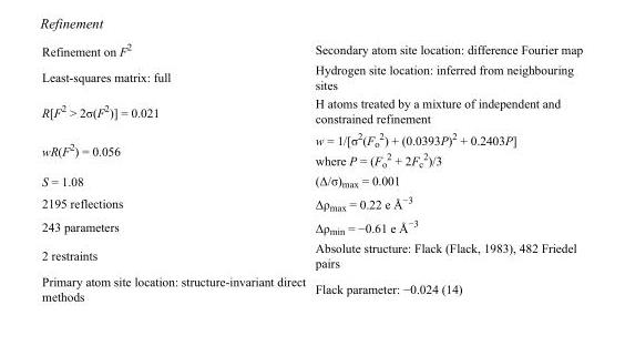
<table><tbody><tr><td>Refinement on F<sup>2</sup></td><td>Secondary atom site location: difference Fourier map</td></tr><tr><td>Least-squares matrix: full</td><td>Hydrogen site location: inferred from neighbouring sites</td></tr><tr><td>R[F<sup>2</sup> &gt; 2σ(F<sup>2</sup>)] = 0.021</td><td>H atoms treated by a mixture of independent and constrained refinement</td></tr><tr><td>wR(F<sup>2</sup>) = 0.056</td><td>w = 1/[σ<sup>2</sup>(F<sub>o</sub> <sup>2</sup>) + (0.0393P)<sup>2</sup> + 0.2403P] where P = (F<sub>o</sub> <sup>2</sup> + 2F<sub>c</sub> <sup>2</sup>)/3</td></tr><tr><td>S = 1.08</td><td>(Δ/σ)<sub>max</sub> = 0.001</td></tr><tr><td>2195 reflections</td><td>Δρ<sub>max</sub> = 0.22 e Å<sup>−3</sup></td></tr><tr><td>243 parameters</td><td>Δρ<sub>min</sub> = −0.61 e Å<sup>−3</sup></td></tr><tr><td>2 restraints</td><td>Absolute structure: Flack (Flack, 1983), 482 Friedel pairs</td></tr><tr><td>Primary atom site location: structure-invariant direct methods</td><td>Flack parameter: −0.024 (14)</td></tr></tbody></table>